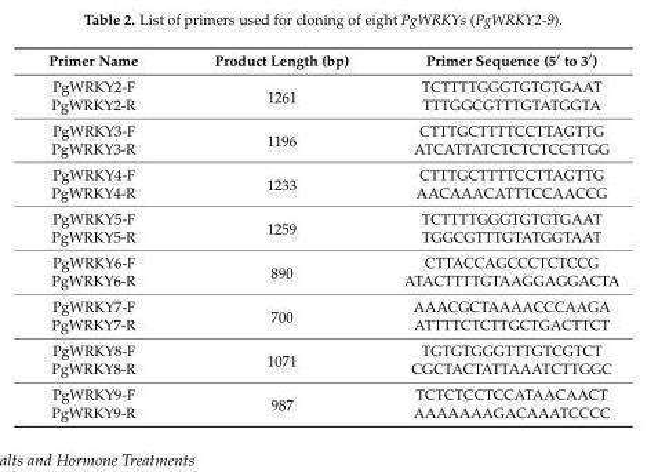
<table><thead><tr><td>Primer Name</td><td>Product Length (bp)</td><td>Primer Sequence (5′ to 3′)</td></tr></thead><tbody><tr><td>PgWRKY2-F</td><td rowspan="2">1261</td><td>TCTTTTGGGTGTGTGAAT</td></tr><tr><td>PgWRKY2-R</td><td>TTTGGCGTTTGTATGGTA</td></tr><tr><td>PgWRKY3-F</td><td rowspan="2">1196</td><td>CTTTGCTTTTCCTTAGTTG</td></tr><tr><td>PgWRKY3-R</td><td>ATCATTATCTCTCTCCTTGG</td></tr><tr><td>PgWRKY4-F</td><td rowspan="2">1233</td><td>CTTTGCTTTTCCTTAGTTG</td></tr><tr><td>PgWRKY4-R</td><td>AACAAACATTTCCAACCG</td></tr><tr><td>PgWRKY5-F</td><td rowspan="2">1259</td><td>TCTTTTGGGTGTGTGAAT</td></tr><tr><td>PgWRKY5-R</td><td>TGGCGTTTGTATGGTAAT</td></tr><tr><td>PgWRKY6-F</td><td rowspan="2">890</td><td>CTTACCAGCCCTCTCCG</td></tr><tr><td>PgWRKY6-R</td><td>ATACTTTTGTAAGGAGGACTA</td></tr><tr><td>PgWRKY7-F</td><td rowspan="2">700</td><td>AAACGCTAAAACCCAAGA</td></tr><tr><td>PgWRKY7-R</td><td>ATTTTCTCTTGCTGACTTCT</td></tr><tr><td>PgWRKY8-F</td><td rowspan="2">1071</td><td>TGTGTGGGTTTGTCGTCT</td></tr><tr><td>PgWRKY8-R</td><td>CGCTACTATTAAATCTTGGC</td></tr><tr><td>PgWRKY9-F</td><td rowspan="2">987</td><td>TCTCTCCTCCATAACAACT</td></tr><tr><td>PgWRKY9-R</td><td>AAAAAAAGACAAATCCCC</td></tr></tbody></table>